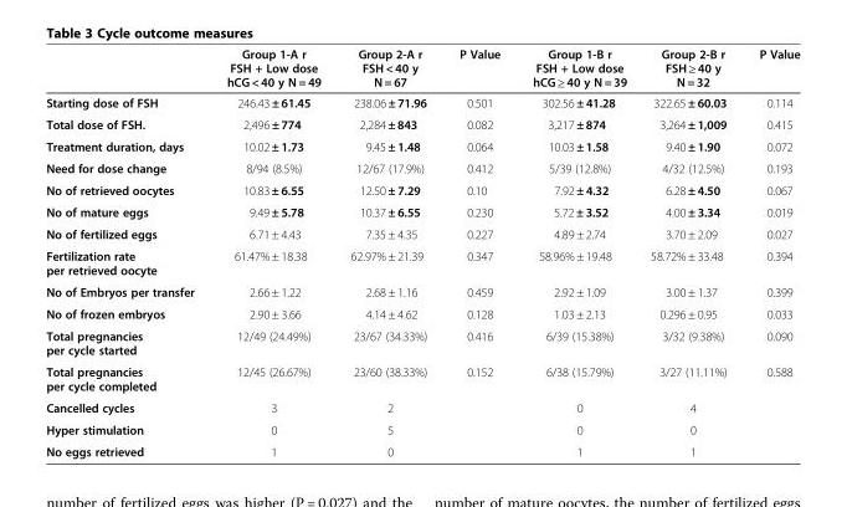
<table><thead><tr><td></td><td>Group 1-A r FSH + Low dose hCG &lt; 40 y N = 49</td><td>Group 2-A r FSH &lt; 40 y N = 67</td><td>P Value</td><td>Group 1-B r FSH + Low dose hCG ≥ 40 y N = 39</td><td>Group 2-B r FSH ≥ 40 y N = 32</td><td>P Value</td></tr></thead><tbody><tr><td>Starting dose of FSH</td><td>246.43 ± 61.45</td><td>238.06 ± 71.96</td><td>0.501</td><td>302.56 ± 41.28</td><td>322.65 ± 60.03</td><td>0.114</td></tr><tr><td>Total dose of FSH.</td><td>2,496 ± 774</td><td>2,284 ± 843</td><td>0.082</td><td>3,217 ± 874</td><td>3,264 ± 1,009</td><td>0.415</td></tr><tr><td>Treatment duration, days</td><td>10.02 ± 1.73</td><td>9.45 ± 1.48</td><td>0.064</td><td>10.03 ± 1.58</td><td>9.40 ± 1.90</td><td>0.072</td></tr><tr><td>Need for dose change</td><td>8/94 (8.5%)</td><td>12/67 (17.9%)</td><td>0.412</td><td>5/39 (12.8%)</td><td>4/32 (12.5%)</td><td>0.193</td></tr><tr><td>No of retrieved oocytes</td><td>10.83 ± 6.55</td><td>12.50 ± 7.29</td><td>0.10</td><td>7.92 ± 4.32</td><td>6.28 ± 4.50</td><td>0.067</td></tr><tr><td>No of mature eggs</td><td>9.49 ± 5.78</td><td>10.37 ± 6.55</td><td>0.230</td><td>5.72 ± 3.52</td><td>4.00 ± 3.34</td><td>0.019</td></tr><tr><td>No of fertilized eggs</td><td>6.71 ± 4.43</td><td>7.35 ± 4.35</td><td>0.227</td><td>4.89 ± 2.74</td><td>3.70 ± 2.09</td><td>0.027</td></tr><tr><td>Fertilization rate per retrieved oocyte</td><td>61.47% ± 18.38</td><td>62.97% ± 21.39</td><td>0.347</td><td>58.96% ± 19.48</td><td>58.72% ± 33.48</td><td>0.394</td></tr><tr><td>No of Embryos per transfer</td><td>2.66 ± 1.22</td><td>2.68 ± 1.16</td><td>0.459</td><td>2.92 ± 1.09</td><td>3.00 ± 1.37</td><td>0.399</td></tr><tr><td>No of frozen embryos</td><td>2.90 ± 3.66</td><td>4.14 ± 4.62</td><td>0.128</td><td>1.03 ± 2.13</td><td>0.296 ± 0.95</td><td>0.033</td></tr><tr><td>Total pregnancies per cycle started</td><td>12/49 (24.49%)</td><td>23/67 (34.33%)</td><td>0.416</td><td>6/39 (15.38%)</td><td>3/32 (9.38%)</td><td>0.090</td></tr><tr><td>Total pregnancies per cycle completed</td><td>12/45 (26.67%)</td><td>23/60 (38.33%)</td><td>0.152</td><td>6/38 (15.79%)</td><td>3/27 (11.11%)</td><td>0.588</td></tr><tr><td>Cancelled cycles</td><td>3</td><td>2</td><td></td><td>0</td><td>4</td><td></td></tr><tr><td>Hyper stimulation</td><td>0</td><td>5</td><td></td><td>0</td><td>0</td><td></td></tr><tr><td>No eggs retrieved</td><td>1</td><td>0</td><td></td><td>1</td><td>1</td><td></td></tr></tbody></table>